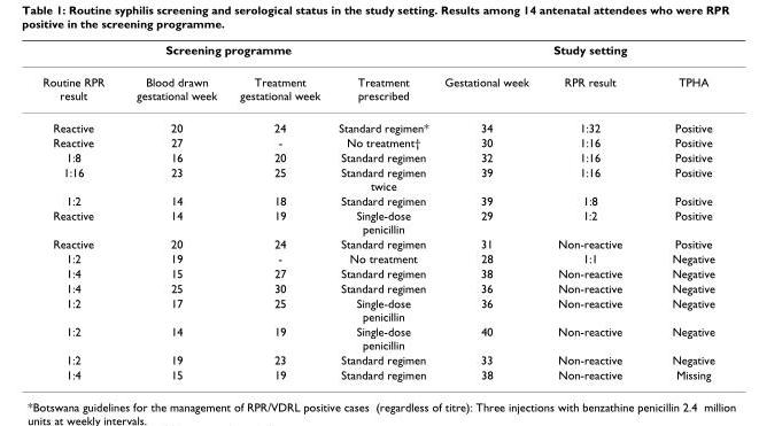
<table><thead><tr><td colspan="4">Screening programme</td><td colspan="3">Study setting</td></tr><tr><td>Routine RPR result</td><td>Blood drawn gestational week</td><td>Treatment gestational week</td><td>Treatment prescribed</td><td>Gestational week</td><td>RPR result</td><td>TPHA</td></tr></thead><tbody><tr><td>Reactive</td><td>20</td><td>24</td><td>Standard regimen*</td><td>34</td><td>1:32</td><td>Positive</td></tr><tr><td>Reactive</td><td>27</td><td>-</td><td>No treatment†</td><td>30</td><td>1:16</td><td>Positive</td></tr><tr><td>1:8</td><td>16</td><td>20</td><td>Standard regimen</td><td>32</td><td>1:16</td><td>Positive</td></tr><tr><td>1:16</td><td>23</td><td>25</td><td>Standard regimen twice</td><td>39</td><td>1:16</td><td>Positive</td></tr><tr><td>1:2</td><td>14</td><td>18</td><td>Standard regimen</td><td>39</td><td>1:8</td><td>Positive</td></tr><tr><td>Reactive</td><td>14</td><td>19</td><td>Single-dose penicillin</td><td>29</td><td>1:2</td><td>Positive</td></tr><tr><td>Reactive</td><td>20</td><td>24</td><td>Standard regimen</td><td>31</td><td>Non-reactive</td><td>Positive</td></tr><tr><td>1:2</td><td>19</td><td>-</td><td>No treatment</td><td>28</td><td>1:1</td><td>Negative</td></tr><tr><td>1:4</td><td>15</td><td>27</td><td>Standard regimen</td><td>38</td><td>Non-reactive</td><td>Negative</td></tr><tr><td>1:4</td><td>25</td><td>30</td><td>Standard regimen</td><td>36</td><td>Non-reactive</td><td>Negative</td></tr><tr><td>1:2</td><td>17</td><td>25</td><td>Single-dose penicillin</td><td>36</td><td>Non-reactive</td><td>Negative</td></tr><tr><td>1:2</td><td>14</td><td>19</td><td>Single-dose penicillin</td><td>40</td><td>Non-reactive</td><td>Negative</td></tr><tr><td>1:2</td><td>19</td><td>23</td><td>Standard regimen</td><td>33</td><td>Non-reactive</td><td>Negative</td></tr><tr><td>1:4</td><td>15</td><td>19</td><td>Standard regimen</td><td>38</td><td>Non-reactive</td><td>Missing</td></tr></tbody></table>